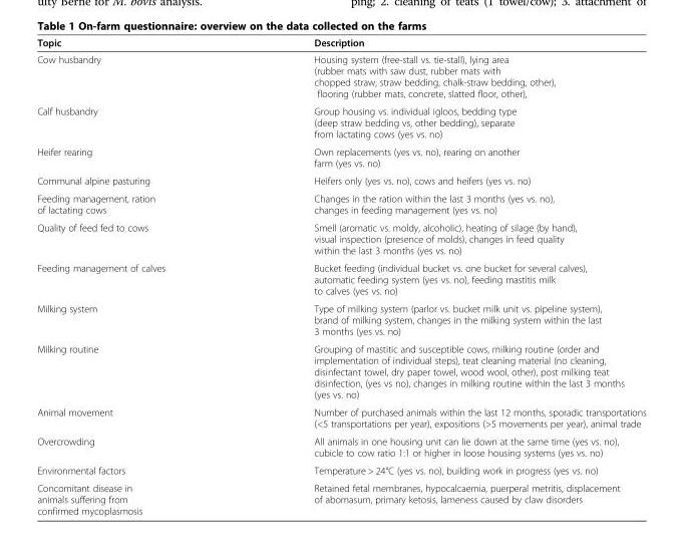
<table><thead><tr><td>Topic</td><td>Description</td></tr></thead><tbody><tr><td>Cow husbandry</td><td>Housing system (free-stall vs. tie-stall), lying area (rubber mats with saw dust, rubber mats with chopped straw, straw bedding, chalk-straw bedding, other), flooring (rubber mats, concrete, slatted floor, other),</td></tr><tr><td>Calf husbandry</td><td>Group housing vs. individual igloos, bedding type (deep straw bedding vs, other bedding), separate from lactating cows (yes vs. no)</td></tr><tr><td>Heifer rearing</td><td>Own replacements (yes vs. no), rearing on another farm (yes vs. no)</td></tr><tr><td>Communal alpine pasturing</td><td>Heifers only (yes vs. no), cows and heifers (yes vs. no)</td></tr><tr><td>Feeding management, ration of lactating cows</td><td>Changes in the ration within the last 3 months (yes vs. no), changes in feeding management (yes vs. no)</td></tr><tr><td>Quality of feed fed to cows</td><td>Smell (aromatic vs. moldy, alcoholic), heating of silage (by hand), visual inspection (presence of molds), changes in feed quality within the last 3 months (yes vs. no)</td></tr><tr><td>Feeding management of calves</td><td>Bucket feeding (individual bucket vs. one bucket for several calves), automatic feeding system (yes vs. no), feeding mastitis milk to calves (yes vs. no)</td></tr><tr><td>Milking system</td><td>Type of milking system (parlor vs. bucket milk unit vs. pipeline system), brand of milking system, changes in the milking system within the last 3 months (yes vs. no)</td></tr><tr><td>Milking routine</td><td>Grouping of mastitic and susceptible cows, milking routine (order and implementation of individual steps), teat cleaning material (no cleaning, disinfectant towel, dry paper towel, wood wool, other), post milking teat disinfection, (yes vs no), changes in milking routine within the last 3 months (yes vs. no)</td></tr><tr><td>Animal movement</td><td>Number of purchased animals within the last 12 months, sporadic transportations (&lt;5 transportations per year), expositions (&gt;5 movements per year), animal trade</td></tr><tr><td>Overcrowding</td><td>All animals in one housing unit can lie down at the same time (yes vs. no), cubicle to cow ratio 1:1 or higher in loose housing systems (yes vs. no)</td></tr><tr><td>Environmental factors</td><td>Temperature &gt; 24°C (yes vs. no), building work in progress (yes vs. no)</td></tr><tr><td>Concomitant disease in animals suffering from confirmed mycoplasmosis</td><td>Retained fetal membranes, hypocalcaemia, puerperal metritis, displacement of abomasum, primary ketosis, lameness caused by claw disorders</td></tr></tbody></table>